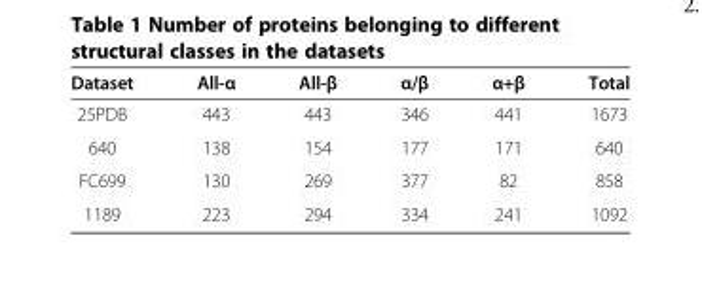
<table><thead><tr><td>Dataset</td><td>All-α</td><td>All-β</td><td>α/β</td><td>α+β</td><td>Total</td></tr></thead><tbody><tr><td>25PDB</td><td>443</td><td>443</td><td>346</td><td>441</td><td>1673</td></tr><tr><td>640</td><td>138</td><td>154</td><td>177</td><td>171</td><td>640</td></tr><tr><td>FC699</td><td>130</td><td>269</td><td>377</td><td>82</td><td>858</td></tr><tr><td>1189</td><td>223</td><td>294</td><td>334</td><td>241</td><td>1092</td></tr></tbody></table>